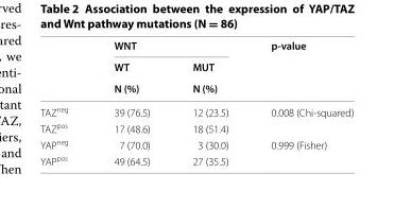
<table><thead><tr><td rowspan="3"></td><td colspan="2">WNT</td><td rowspan="3">p-value</td></tr><tr><td rowspan="2">WT N (%)</td><td rowspan="2">MUT N (%)</td></tr><tr></tr></thead><tbody><tr><td>TAZ<sup>neg</sup></td><td>39 (76.5)</td><td>12 (23.5)</td><td>0.008 (Chi‑squared)</td></tr><tr><td>TAZ<sup>pos</sup></td><td>17 (48.6)</td><td>18 (51.4)</td><td></td></tr><tr><td>YAP<sup>neg</sup></td><td>7 (70.0)</td><td>3 (30.0)</td><td>0.999 (Fisher)</td></tr><tr><td>YAP<sup>pos</sup></td><td>49 (64.5)</td><td>27 (35.5)</td><td></td></tr></tbody></table>